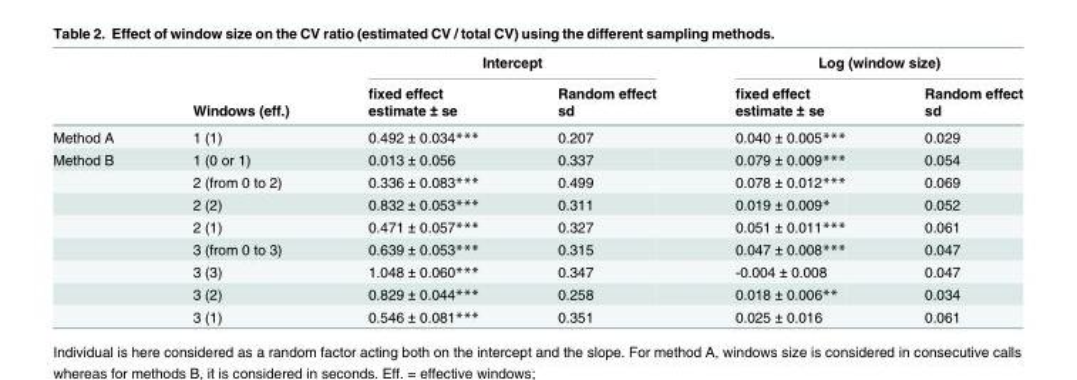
<table><thead><tr><td rowspan="3"></td><td rowspan="3">Windows (eff.)</td><td colspan="2">Intercept</td><td colspan="2">Log (window size)</td></tr><tr><td rowspan="2">fixed effect estimate ± se</td><td rowspan="2">Random effect sd</td><td rowspan="2">fixed effect estimate ± se</td><td rowspan="2">Random effect sd</td></tr><tr></tr></thead><tbody><tr><td>Method A</td><td>1 (1)</td><td>0.492 ± 0.034***</td><td>0.207</td><td>0.040 ± 0.005***</td><td>0.029</td></tr><tr><td rowspan="8">Method B</td><td>1 (0 or 1)</td><td>0.013 ± 0.056</td><td>0.337</td><td>0.079 ± 0.009***</td><td>0.054</td></tr><tr><td>2 (from 0 to 2)</td><td>0.336 ± 0.083***</td><td>0.499</td><td>0.078 ± 0.012***</td><td>0.069</td></tr><tr><td>2 (2)</td><td>0.832 ± 0.053***</td><td>0.311</td><td>0.019 ± 0.009*</td><td>0.052</td></tr><tr><td>2 (1)</td><td>0.471 ± 0.057***</td><td>0.327</td><td>0.051 ± 0.011***</td><td>0.061</td></tr><tr><td>3 (from 0 to 3)</td><td>0.639 ± 0.053***</td><td>0.315</td><td>0.047 ± 0.008***</td><td>0.047</td></tr><tr><td>3 (3)</td><td>1.048 ± 0.060***</td><td>0.347</td><td>-0.004 ± 0.008</td><td>0.047</td></tr><tr><td>3 (2)</td><td>0.829 ± 0.044***</td><td>0.258</td><td>0.018 ± 0.006**</td><td>0.034</td></tr><tr><td>3 (1)</td><td>0.546 ± 0.081***</td><td>0.351</td><td>0.025 ± 0.016</td><td>0.061</td></tr></tbody></table>